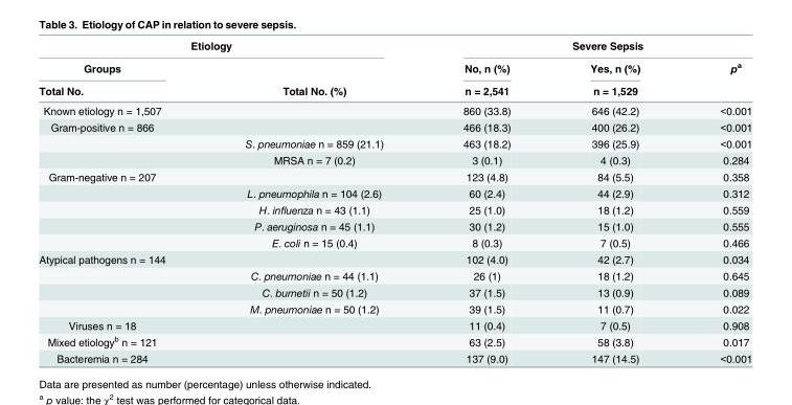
<table><thead><tr><td colspan="2">Etiology</td><td colspan="3">Severe Sepsis</td></tr><tr><td rowspan="2">Groups Total No.</td><td rowspan="2">Total No. (%)</td><td rowspan="2">No, n (%) n = 2,541</td><td rowspan="2">Yes, n (%) n = 1,529</td><td rowspan="2">p<sup>a</sup></td></tr><tr></tr></thead><tbody><tr><td>Known etiology n = 1,507</td><td></td><td>860 (33.8)</td><td>646 (42.2)</td><td>&lt;0.001</td></tr><tr><td rowspan="3">Gram-positive n = 866</td><td></td><td>466 (18.3)</td><td>400 (26.2)</td><td>&lt;0.001</td></tr><tr><td>S. pneumoniae n = 859 (21.1)</td><td>463 (18.2)</td><td>396 (25.9)</td><td>&lt;0.001</td></tr><tr><td>MRSA n = 7 (0.2)</td><td>3 (0.1)</td><td>4 (0.3)</td><td>0.284</td></tr><tr><td rowspan="5">Gram-negative n = 207</td><td></td><td>123 (4.8)</td><td>84 (5.5)</td><td>0.358</td></tr><tr><td>L. pneumophila n = 104 (2.6)</td><td>60 (2.4)</td><td>44 (2.9)</td><td>0.312</td></tr><tr><td>H. influenza n = 43 (1.1)</td><td>25 (1.0)</td><td>18 (1.2)</td><td>0.559</td></tr><tr><td>P. aeruginosa n = 45 (1.1)</td><td>30 (1.2)</td><td>15 (1.0)</td><td>0.555</td></tr><tr><td>E. coli n = 15 (0.4)</td><td>8 (0.3)</td><td>7 (0.5)</td><td>0.466</td></tr><tr><td rowspan="4">Atypical pathogens n = 144</td><td></td><td>102 (4.0)</td><td>42 (2.7)</td><td>0.034</td></tr><tr><td>C. pneumoniae n = 44 (1.1)</td><td>26 (1)</td><td>18 (1.2)</td><td>0.645</td></tr><tr><td>C. burnetii n = 50 (1.2)</td><td>37 (1.5)</td><td>13 (0.9)</td><td>0.089</td></tr><tr><td>M. pneumoniae n = 50 (1.2)</td><td>39 (1.5)</td><td>11 (0.7)</td><td>0.022</td></tr><tr><td>Viruses n = 18</td><td></td><td>11 (0.4)</td><td>7 (0.5)</td><td>0.908</td></tr><tr><td>Mixed etiology<sup>b</sup> n = 121</td><td></td><td>63 (2.5)</td><td>58 (3.8)</td><td>0.017</td></tr><tr><td>Bacteremia n = 284</td><td></td><td>137 (9.0)</td><td>147 (14.5)</td><td>&lt;0.001</td></tr></tbody></table>